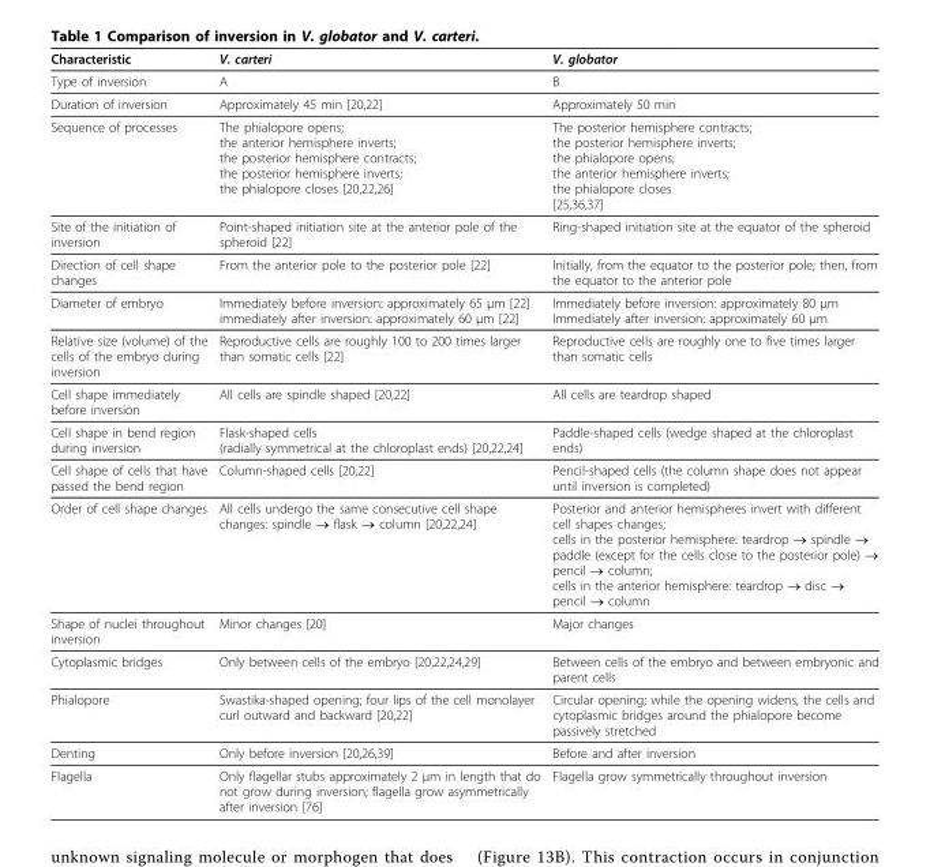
<table><thead><tr><td>Characteristic</td><td>V. carteri</td><td>V. globator</td></tr></thead><tbody><tr><td>Type of inversion</td><td>A</td><td>B</td></tr><tr><td>Duration of inversion</td><td>Approximately 45 min [20,22]</td><td>Approximately 50 min</td></tr><tr><td>Sequence of processes</td><td>The phialopore opens; the anterior hemisphere inverts; the posterior hemisphere contracts; the posterior hemisphere inverts; the phialopore closes [20,22,26]</td><td>The posterior hemisphere contracts; the posterior hemisphere inverts; the phialopore opens; the anterior hemisphere inverts; the phialopore closes [25,36,37]</td></tr><tr><td>Site of the initiation of inversion</td><td>Point-shaped initiation site at the anterior pole of the spheroid [22]</td><td>Ring-shaped initiation site at the equator of the spheroid</td></tr><tr><td>Direction of cell shape changes</td><td>From the anterior pole to the posterior pole [22]</td><td>Initially, from the equator to the posterior pole; then, from the equator to the anterior pole</td></tr><tr><td>Diameter of embryo</td><td>Immediately before inversion: approximately 65 μm [22] immediately after inversion: approximately 60 μm [22]</td><td>Immediately before inversion: approximately 80 μm Immediately after inversion: approximately 60 μm</td></tr><tr><td>Relative size (volume) of the cells of the embryo during inversion</td><td>Reproductive cells are roughly 100 to 200 times larger than somatic cells [22]</td><td>Reproductive cells are roughly one to five times larger than somatic cells</td></tr><tr><td>Cell shape immediately before inversion</td><td>All cells are spindle shaped [20,22]</td><td>All cells are teardrop shaped</td></tr><tr><td>Cell shape in bend region during inversion</td><td>Flask-shaped cells (radially symmetrical at the chloroplast ends) [20,22,24]</td><td>Paddle-shaped cells (wedge shaped at the chloroplast ends)</td></tr><tr><td>Cell shape of cells that have passed the bend region</td><td>Column-shaped cells [20,22]</td><td>Pencil-shaped cells (the column shape does not appear until inversion is completed)</td></tr><tr><td>Order of cell shape changes</td><td>All cells undergo the same consecutive cell shape changes: spindle → flask → column [20,22,24]</td><td>Posterior and anterior hemispheres invert with different cell shapes changes; cells in the posterior hemisphere: teardrop → spindle → paddle (except for the cells close to the posterior pole) → pencil → column; cells in the anterior hemisphere: teardrop → disc → pencil → column</td></tr><tr><td>Shape of nuclei throughout inversion</td><td>Minor changes [20]</td><td>Major changes</td></tr><tr><td>Cytoplasmic bridges</td><td>Only between cells of the embryo [20,22,24,29]</td><td>Between cells of the embryo and between embryonic and parent cells</td></tr><tr><td>Phialopore</td><td>Swastika-shaped opening; four lips of the cell monolayer curl outward and backward [20,22]</td><td>Circular opening; while the opening widens, the cells and cytoplasmic bridges around the phialopore become passively stretched</td></tr><tr><td>Denting</td><td>Only before inversion [20,26,39]</td><td>Before and after inversion</td></tr><tr><td>Flagella</td><td>Only flagellar stubs approximately 2 μm in length that do not grow during inversion; flagella grow asymmetrically after inversion [76]</td><td>Flagella grow symmetrically throughout inversion</td></tr></tbody></table>